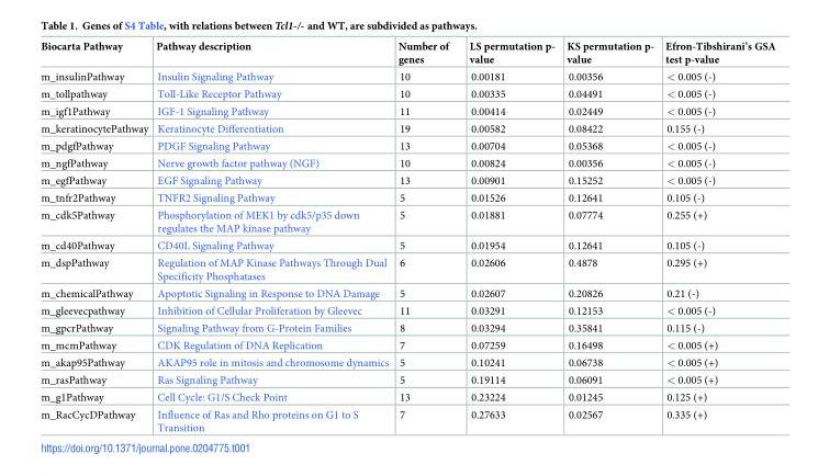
<table><thead><tr><td>Biocarta Pathway</td><td>Pathway description</td><td>Number of genes</td><td>LS permutation p- value</td><td>KS permutation p- value</td><td>Efron-Tibshirani’s GSA test p-value</td></tr></thead><tbody><tr><td>m_insulinPathway</td><td>Insulin Signaling Pathway</td><td>10</td><td>0.00181</td><td>0.00356</td><td>&lt; 0.005 (-)</td></tr><tr><td>m_tollpathway</td><td>Toll-Like Receptor Pathway</td><td>10</td><td>0.00335</td><td>0.04491</td><td>&lt; 0.005 (-)</td></tr><tr><td>m_igf1Pathway</td><td>IGF-1 Signaling Pathway</td><td>11</td><td>0.00414</td><td>0.02449</td><td>&lt; 0.005 (-)</td></tr><tr><td>m_keratinocytePathway</td><td>Keratinocyte Differentiation</td><td>19</td><td>0.00582</td><td>0.08422</td><td>0.155 (-)</td></tr><tr><td>m_pdgfPathway</td><td>PDGF Signaling Pathway</td><td>13</td><td>0.00704</td><td>0.05368</td><td>&lt; 0.005 (-)</td></tr><tr><td>m_ngfPathway</td><td>Nerve growth factor pathway (NGF)</td><td>10</td><td>0.00824</td><td>0.00356</td><td>&lt; 0.005 (-)</td></tr><tr><td>m_egfPathway</td><td>EGF Signaling Pathway</td><td>13</td><td>0.00901</td><td>0.15252</td><td>&lt; 0.005 (-)</td></tr><tr><td>m_tnfr2Pathway</td><td>TNFR2 Signaling Pathway</td><td>5</td><td>0.01526</td><td>0.12641</td><td>0.105 (-)</td></tr><tr><td>m_cdk5Pathway</td><td>Phosphorylation of MEK1 by cdk5/p35 down regulates the MAP kinase pathway</td><td>5</td><td>0.01881</td><td>0.07774</td><td>0.255 (+)</td></tr><tr><td>m_cd40Pathway</td><td>CD40L Signaling Pathway</td><td>5</td><td>0.01954</td><td>0.12641</td><td>0.105 (-)</td></tr><tr><td>m_dspPathway</td><td>Regulation of MAP Kinase Pathways Through Dual Specificity Phosphatases</td><td>6</td><td>0.02606</td><td>0.4878</td><td>0.295 (+)</td></tr><tr><td>m_chemicalPathway</td><td>Apoptotic Signaling in Response to DNA Damage</td><td>5</td><td>0.02607</td><td>0.20826</td><td>0.21 (-)</td></tr><tr><td>m_gleevecpathway</td><td>Inhibition of Cellular Proliferation by Gleevec</td><td>11</td><td>0.03291</td><td>0.12153</td><td>&lt; 0.005 (-)</td></tr><tr><td>m_gpcrPathway</td><td>Signaling Pathway from G-Protein Families</td><td>8</td><td>0.03294</td><td>0.35841</td><td>0.115 (-)</td></tr><tr><td>m_mcmPathway</td><td>CDK Regulation of DNA Replication</td><td>7</td><td>0.07259</td><td>0.16498</td><td>&lt; 0.005 (+)</td></tr><tr><td>m_akap95Pathway</td><td>AKAP95 role in mitosis and chromosome dynamics</td><td>5</td><td>0.10241</td><td>0.06738</td><td>&lt; 0.005 (+)</td></tr><tr><td>m_rasPathway</td><td>Ras Signaling Pathway</td><td>5</td><td>0.19114</td><td>0.06091</td><td>&lt; 0.005 (+)</td></tr><tr><td>m_g1Pathway</td><td>Cell Cycle: G1/S Check Point</td><td>13</td><td>0.23224</td><td>0.01245</td><td>0.125 (+)</td></tr><tr><td>m_RacCycDPathway</td><td>Influence of Ras and Rho proteins on G1 to S Transition</td><td>7</td><td>0.27633</td><td>0.02567</td><td>0.335 (+)</td></tr></tbody></table>